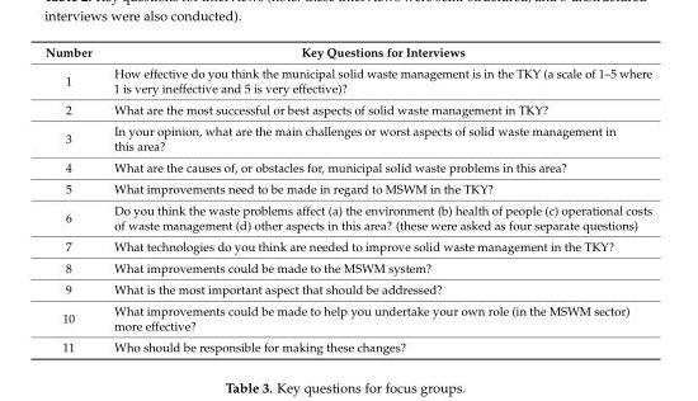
<table><thead><tr><td>Number</td><td>Key Questions for Interviews</td></tr></thead><tbody><tr><td>1</td><td>How effective do you think the municipal solid waste management is in the TKY (a scale of 1–5 where 1 is very ineffective and 5 is very effective)?</td></tr><tr><td>2</td><td>What are the most successful or best aspects of solid waste management in TKY?</td></tr><tr><td>3</td><td>In your opinion, what are the main challenges or worst aspects of solid waste management in this area?</td></tr><tr><td>4</td><td>What are the causes of, or obstacles for, municipal solid waste problems in this area?</td></tr><tr><td>5</td><td>What improvements need to be made in regard to MSWM in the TKY?</td></tr><tr><td>6</td><td>Do you think the waste problems affect (a) the environment (b) health of people (c) operational costs of waste management (d) other aspects in this area? (these were asked as four separate questions)</td></tr><tr><td>7</td><td>What technologies do you think are needed to improve solid waste management in the TKY?</td></tr><tr><td>8</td><td>What improvements could be made to the MSWM system?</td></tr><tr><td>9</td><td>What is the most important aspect that should be addressed?</td></tr><tr><td>10</td><td>What improvements could be made to help you undertake your own role (in the MSWM sector) more effective?</td></tr><tr><td>11</td><td>Who should be responsible for making these changes?</td></tr></tbody></table>